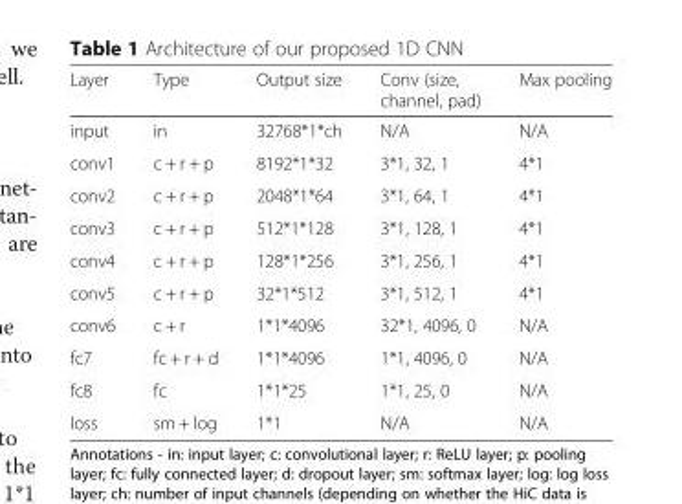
<table><thead><tr><td>Layer</td><td>Type</td><td>Output size</td><td>Conv (size, channel, pad)</td><td>Max pooling</td></tr></thead><tbody><tr><td>input</td><td>in</td><td>32768*1*ch</td><td>N/A</td><td>N/A</td></tr><tr><td>conv1</td><td>c + r + p</td><td>8192*1*32</td><td>3*1, 32, 1</td><td>4*1</td></tr><tr><td>conv2</td><td>c + r + p</td><td>2048*1*64</td><td>3*1, 64, 1</td><td>4*1</td></tr><tr><td>conv3</td><td>c + r + p</td><td>512*1*128</td><td>3*1, 128, 1</td><td>4*1</td></tr><tr><td>conv4</td><td>c + r + p</td><td>128*1*256</td><td>3*1, 256, 1</td><td>4*1</td></tr><tr><td>conv5</td><td>c + r + p</td><td>32*1*512</td><td>3*1, 512, 1</td><td>4*1</td></tr><tr><td>conv6</td><td>c + r</td><td>1*1*4096</td><td>32*1, 4096, 0</td><td>N/A</td></tr><tr><td>fc7</td><td>fc + r + d</td><td>1*1*4096</td><td>1*1, 4096, 0</td><td>N/A</td></tr><tr><td>fc8</td><td>fc</td><td>1*1*25</td><td>1*1, 25, 0</td><td>N/A</td></tr><tr><td>loss</td><td>sm + log</td><td>1*1</td><td>N/A</td><td>N/A</td></tr></tbody></table>